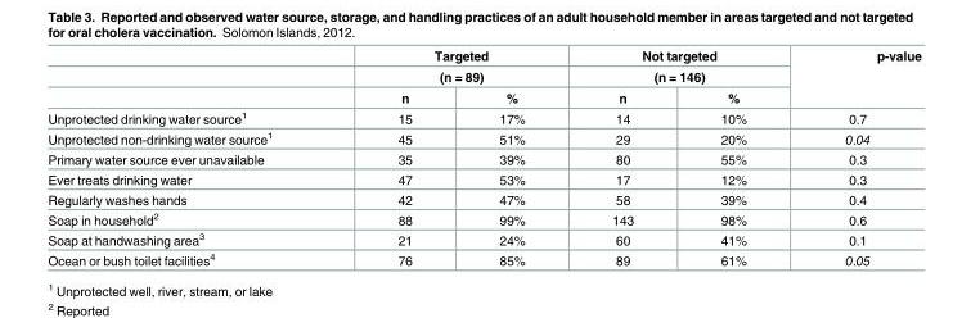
<table><thead><tr><td rowspan="3"></td><td rowspan="2" colspan="2">Targeted (n = 89)</td><td rowspan="2" colspan="2">Not targeted (n = 146)</td><td rowspan="3">p-value</td></tr><tr></tr><tr><td>n</td><td>%</td><td>n</td><td>%</td></tr></thead><tbody><tr><td>Unprotected drinking water source<sup>1</sup></td><td>15</td><td>17%</td><td>14</td><td>10%</td><td>0.7</td></tr><tr><td>Unprotected non-drinking water source<sup>1</sup></td><td>45</td><td>51%</td><td>29</td><td>20%</td><td>0.04</td></tr><tr><td>Primary water source ever unavailable</td><td>35</td><td>39%</td><td>80</td><td>55%</td><td>0.3</td></tr><tr><td>Ever treats drinking water</td><td>47</td><td>53%</td><td>17</td><td>12%</td><td>0.3</td></tr><tr><td>Regularly washes hands</td><td>42</td><td>47%</td><td>58</td><td>39%</td><td>0.4</td></tr><tr><td>Soap in household<sup>2</sup></td><td>88</td><td>99%</td><td>143</td><td>98%</td><td>0.6</td></tr><tr><td>Soap at handwashing area<sup>3</sup></td><td>21</td><td>24%</td><td>60</td><td>41%</td><td>0.1</td></tr><tr><td>Ocean or bush toilet facilities<sup>4</sup></td><td>76</td><td>85%</td><td>89</td><td>61%</td><td>0.05</td></tr></tbody></table>